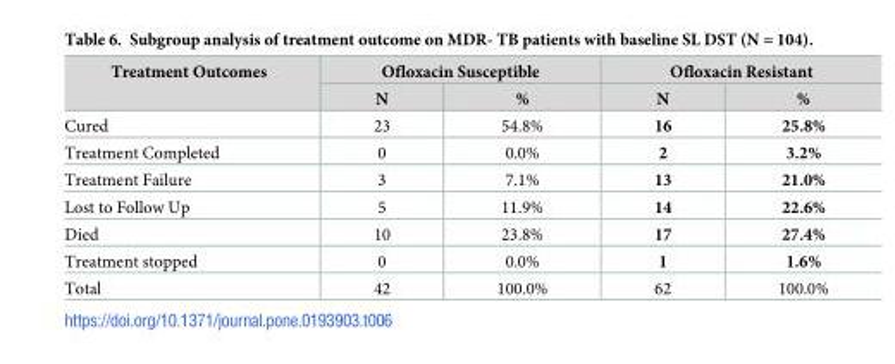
<table><thead><tr><td rowspan="2">Treatment Outcomes</td><td colspan="2">Ofloxacin Susceptible</td><td colspan="2">Ofloxacin Resistant</td></tr><tr><td>N</td><td>%</td><td>N</td><td>%</td></tr></thead><tbody><tr><td>Cured</td><td>23</td><td>54.8%</td><td>16</td><td>25.8%</td></tr><tr><td>Treatment Completed</td><td>0</td><td>0.0%</td><td>2</td><td>3.2%</td></tr><tr><td>Treatment Failure</td><td>3</td><td>7.1%</td><td>13</td><td>21.0%</td></tr><tr><td>Lost to Follow Up</td><td>5</td><td>11.9%</td><td>14</td><td>22.6%</td></tr><tr><td>Died</td><td>10</td><td>23.8%</td><td>17</td><td>27.4%</td></tr><tr><td>Treatment stopped</td><td>0</td><td>0.0%</td><td>1</td><td>1.6%</td></tr><tr><td>Total</td><td>42</td><td>100.0%</td><td>62</td><td>100.0%</td></tr></tbody></table>